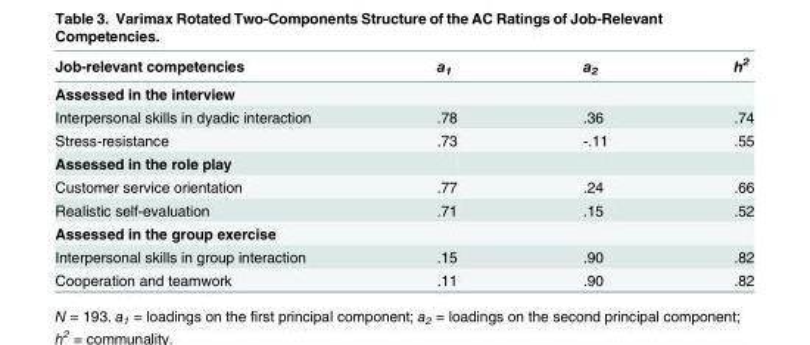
<table><thead><tr><td>Job-relevant competencies</td><td>a<sub>1</sub></td><td>a<sub>2</sub></td><td>h<sup>2</sup></td></tr></thead><tbody><tr><td colspan="4">Assessed in the interview</td></tr><tr><td>Interpersonal skills in dyadic interaction</td><td>.78</td><td>.36</td><td>.74</td></tr><tr><td>Stress-resistance</td><td>.73</td><td>-.11</td><td>.55</td></tr><tr><td colspan="4">Assessed in the role play</td></tr><tr><td>Customer service orientation</td><td>.77</td><td>.24</td><td>.66</td></tr><tr><td>Realistic self-evaluation</td><td>.71</td><td>.15</td><td>.52</td></tr><tr><td colspan="4">Assessed in the group exercise</td></tr><tr><td>Interpersonal skills in group interaction</td><td>.15</td><td>.90</td><td>.82</td></tr><tr><td>Cooperation and teamwork</td><td>.11</td><td>.90</td><td>.82</td></tr></tbody></table>